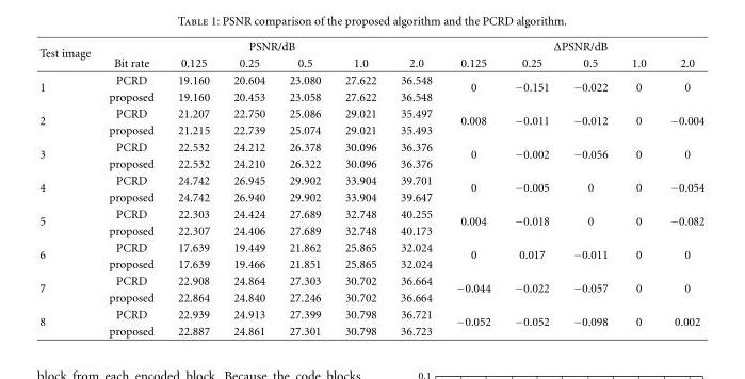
<table><thead><tr><td rowspan="2">Test image</td><td colspan="6">PSNR/dB</td><td colspan="5">ΔPSNR/dB</td></tr><tr><td>Bit rate</td><td>0.125</td><td>0.25</td><td>0.5</td><td>1.0</td><td>2.0</td><td>0.125</td><td>0.25</td><td>0.5</td><td>1.0</td><td>2.0</td></tr></thead><tbody><tr><td rowspan="2">1</td><td>PCRD</td><td>19.160</td><td>20.604</td><td>23.080</td><td>27.622</td><td>36.548</td><td rowspan="2">0</td><td rowspan="2">−0.151</td><td rowspan="2">−0.022</td><td rowspan="2">0</td><td rowspan="2">0</td></tr><tr><td>proposed</td><td>19.160</td><td>20.453</td><td>23.058</td><td>27.622</td><td>36.548</td></tr><tr><td rowspan="2">2</td><td>PCRD</td><td>21.207</td><td>22.750</td><td>25.086</td><td>29.021</td><td>35.497</td><td rowspan="2">0.008</td><td rowspan="2">−0.011</td><td rowspan="2">−0.012</td><td rowspan="2">0</td><td rowspan="2">−0.004</td></tr><tr><td>proposed</td><td>21.215</td><td>22.739</td><td>25.074</td><td>29.021</td><td>35.493</td></tr><tr><td rowspan="2">3</td><td>PCRD</td><td>22.532</td><td>24.212</td><td>26.378</td><td>30.096</td><td>36.376</td><td rowspan="2">0</td><td rowspan="2">−0.002</td><td rowspan="2">−0.056</td><td rowspan="2">0</td><td rowspan="2">0</td></tr><tr><td>proposed</td><td>22.532</td><td>24.210</td><td>26.322</td><td>30.096</td><td>36.376</td></tr><tr><td rowspan="2">4</td><td>PCRD</td><td>24.742</td><td>26.945</td><td>29.902</td><td>33.904</td><td>39.701</td><td rowspan="2">0</td><td rowspan="2">−0.005</td><td rowspan="2">0</td><td rowspan="2">0</td><td rowspan="2">−0.054</td></tr><tr><td>proposed</td><td>24.742</td><td>26.940</td><td>29.902</td><td>33.904</td><td>39.647</td></tr><tr><td rowspan="2">5</td><td>PCRD</td><td>22.303</td><td>24.424</td><td>27.689</td><td>32.748</td><td>40.255</td><td rowspan="2">0.004</td><td rowspan="2">−0.018</td><td rowspan="2">0</td><td rowspan="2">0</td><td rowspan="2">−0.082</td></tr><tr><td>proposed</td><td>22.307</td><td>24.406</td><td>27.689</td><td>32.748</td><td>40.173</td></tr><tr><td rowspan="2">6</td><td>PCRD</td><td>17.639</td><td>19.449</td><td>21.862</td><td>25.865</td><td>32.024</td><td rowspan="2">0</td><td rowspan="2">0.017</td><td rowspan="2">−0.011</td><td rowspan="2">0</td><td rowspan="2">0</td></tr><tr><td>proposed</td><td>17.639</td><td>19.466</td><td>21.851</td><td>25.865</td><td>32.024</td></tr><tr><td rowspan="2">7</td><td>PCRD</td><td>22.908</td><td>24.864</td><td>27.303</td><td>30.702</td><td>36.664</td><td rowspan="2">−0.044</td><td rowspan="2">−0.022</td><td rowspan="2">−0.057</td><td rowspan="2">0</td><td rowspan="2">0</td></tr><tr><td>proposed</td><td>22.864</td><td>24.840</td><td>27.246</td><td>30.702</td><td>36.664</td></tr><tr><td rowspan="2">8</td><td>PCRD</td><td>22.939</td><td>24.913</td><td>27.399</td><td>30.798</td><td>36.721</td><td rowspan="2">−0.052</td><td rowspan="2">−0.052</td><td rowspan="2">−0.098</td><td rowspan="2">0</td><td rowspan="2">0.002</td></tr><tr><td>proposed</td><td>22.887</td><td>24.861</td><td>27.301</td><td>30.798</td><td>36.723</td></tr></tbody></table>